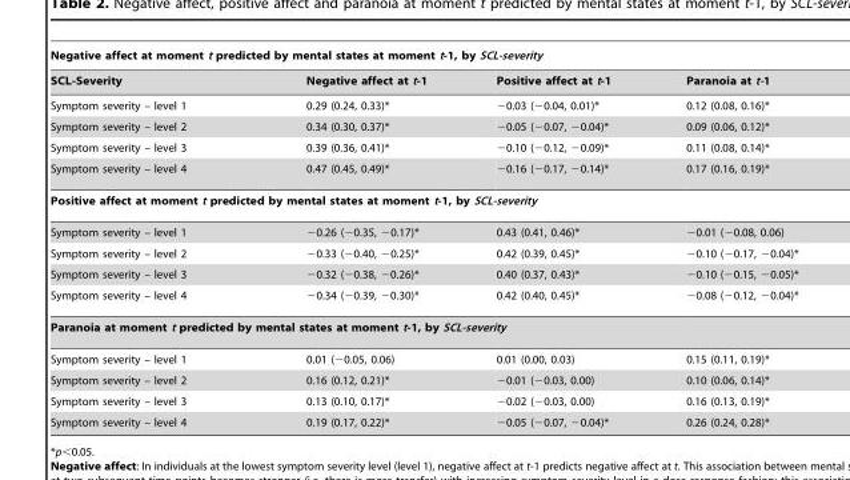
<table><thead><tr><td colspan="4">Negative affect at moment t predicted by mental states at moment t-1, by SCL-severity</td></tr><tr><td>SCL-Severity</td><td>Negative affect at t-1</td><td>Positive affect at t-1</td><td>Paranoia at t-1</td></tr></thead><tbody><tr><td>Symptom severity – level 1</td><td>0.29 (0.24, 0.33)*</td><td>−0.03 (−0.04, 0.01)*</td><td>0.12 (0.08, 0.16)*</td></tr><tr><td>Symptom severity – level 2</td><td>0.34 (0.30, 0.37)*</td><td>−0.05 (−0.07, −0.04)*</td><td>0.09 (0.06, 0.12)*</td></tr><tr><td>Symptom severity – level 3</td><td>0.39 (0.36, 0.41)*</td><td>−0.10 (−0.12, −0.09)*</td><td>0.11 (0.08, 0.14)*</td></tr><tr><td>Symptom severity – level 4</td><td>0.47 (0.45, 0.49)*</td><td>−0.16 (−0.17, −0.14)*</td><td>0.17 (0.16, 0.19)*</td></tr><tr><td colspan="4">Positive affect at moment t predicted by mental states at moment t-1, by SCL-severity</td></tr><tr><td>Symptom severity – level 1</td><td>−0.26 (−0.35, −0.17)*</td><td>0.43 (0.41, 0.46)*</td><td>−0.01 (−0.08, 0.06)</td></tr><tr><td>Symptom severity – level 2</td><td>−0.33 (−0.40, −0.25)*</td><td>0.42 (0.39, 0.45)*</td><td>−0.10 (−0.17, −0.04)*</td></tr><tr><td>Symptom severity – level 3</td><td>−0.32 (−0.38, −0.26)*</td><td>0.40 (0.37, 0.43)*</td><td>−0.10 (−0.15, −0.05)*</td></tr><tr><td>Symptom severity – level 4</td><td>−0.34 (−0.39, −0.30)*</td><td>0.42 (0.40, 0.45)*</td><td>−0.08 (−0.12, −0.04)*</td></tr><tr><td colspan="4">Paranoia at moment t predicted by mental states at moment t-1, by SCL-severity</td></tr><tr><td>Symptom severity – level 1</td><td>0.01 (−0.05, 0.06)</td><td>0.01 (0.00, 0.03)</td><td>0.15 (0.11, 0.19)*</td></tr><tr><td>Symptom severity – level 2</td><td>0.16 (0.12, 0.21)*</td><td>−0.01 (−0.03, 0.00)</td><td>0.10 (0.06, 0.14)*</td></tr><tr><td>Symptom severity – level 3</td><td>0.13 (0.10, 0.17)*</td><td>−0.02 (−0.03, 0.00)</td><td>0.16 (0.13, 0.19)*</td></tr><tr><td>Symptom severity – level 4</td><td>0.19 (0.17, 0.22)*</td><td>−0.05 (−0.07, −0.04)*</td><td>0.26 (0.24, 0.28)*</td></tr></tbody></table>